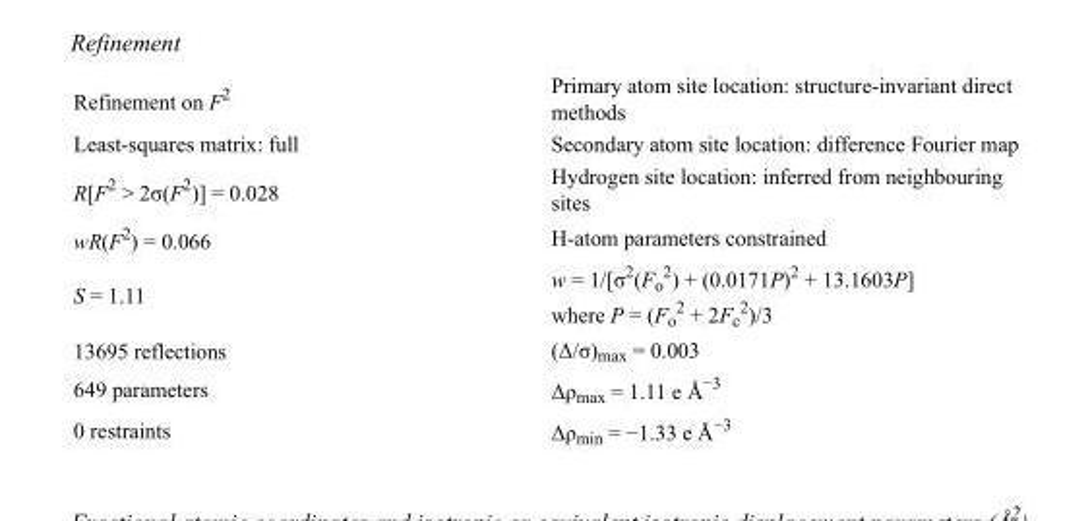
<table><tbody><tr><td>Refinement on F<sup>2</sup></td><td>Primary atom site location: structure-invariant direct methods</td></tr><tr><td>Least-squares matrix: full</td><td>Secondary atom site location: difference Fourier map</td></tr><tr><td>R[F<sup>2</sup> &gt; 2σ(F<sup>2</sup>)] = 0.028</td><td>Hydrogen site location: inferred from neighbouring sites</td></tr><tr><td>wR(F<sup>2</sup>) = 0.066</td><td>H-atom parameters constrained</td></tr><tr><td>S = 1.11</td><td>w = 1/[σ<sup>2</sup>(F<sub>o</sub> <sup>2</sup>) + (0.0171P)<sup>2</sup> + 13.1603P] where P = (F<sub>o</sub> <sup>2</sup> + 2F<sub>c</sub> <sup>2</sup>)/3</td></tr><tr><td>13695 reflections</td><td>(Δ/σ)<sub>max</sub> = 0.003</td></tr><tr><td>649 parameters</td><td>Δρ<sub>max</sub> = 1.11 e Å<sup>−3</sup></td></tr><tr><td>0 restraints</td><td>Δρ<sub>min</sub> = −1.33 e Å<sup>−3</sup></td></tr></tbody></table>